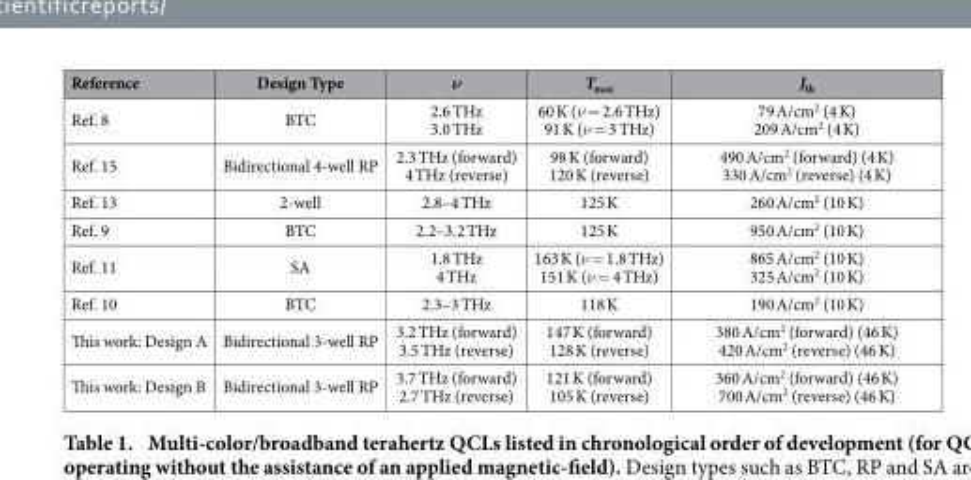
<table><thead><tr><td>Reference</td><td>Design Type</td><td>ν</td><td>T<sub>max</sub></td><td>J<sub>th</sub></td></tr></thead><tbody><tr><td>Ref. 8</td><td>BTC</td><td>2.6 THz 3.0 THz</td><td>60 K (ν = 2.6 THz) 91 K (ν = 3 THz)</td><td>79 A/cm<sup>2</sup> (4 K) 209 A/cm<sup>2</sup> (4 K)</td></tr><tr><td>Ref. 15</td><td>Bidirectional 4-well RP</td><td>2.3 THz (forward) 4 THz (reverse)</td><td>98 K (forward) 120 K (reverse)</td><td>490 A/cm<sup>2</sup> (forward) (4 K) 330 A/cm<sup>2</sup> (reverse) (4 K)</td></tr><tr><td>Ref. 13</td><td>2-well</td><td>2.8–4 THz</td><td>125 K</td><td>260 A/cm<sup>2</sup> (10 K)</td></tr><tr><td>Ref. 9</td><td>BTC</td><td>2.2–3.2 THz</td><td>125 K</td><td>950 A/cm<sup>2</sup> (10 K)</td></tr><tr><td>Ref. 11</td><td>SA</td><td>1.8 THz 4 THz</td><td>163 K (ν = 1.8 THz) 151 K (ν = 4 THz)</td><td>865 A/cm<sup>2</sup> (10 K) 325 A/cm<sup>2</sup> (10 K)</td></tr><tr><td>Ref. 10</td><td>BTC</td><td>2.3–3 THz</td><td>118 K</td><td>190 A/cm<sup>2</sup> (10 K)</td></tr><tr><td>This work: Design A</td><td>Bidirectional 3-well RP</td><td>3.2 THz (forward) 3.5 THz (reverse)</td><td>147 K (forward) 128 K (reverse)</td><td>380 A/cm<sup>2</sup> (forward) (46 K) 420 A/cm<sup>2</sup> (reverse) (46 K)</td></tr><tr><td>This work: Design B</td><td>Bidirectional 3-well RP</td><td>3.7 THz (forward) 2.7 THz (reverse)</td><td>121 K (forward) 105 K (reverse)</td><td>360 A/cm<sup>2</sup> (forward) (46 K) 700 A/cm<sup>2</sup> (reverse) (46 K)</td></tr></tbody></table>